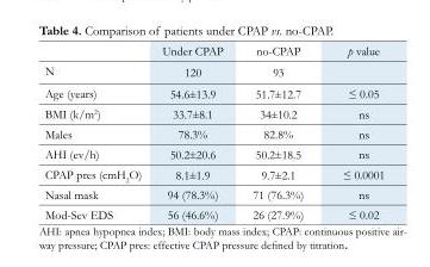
<table><thead><tr><td></td><td>Under CPAP</td><td>no-CPAP</td><td>p value</td></tr></thead><tbody><tr><td>N</td><td>120</td><td>93</td><td></td></tr><tr><td>Age (years)</td><td>54.6±13.9</td><td>51.7±12.7</td><td>≤ 0.05</td></tr><tr><td>BMI (k/m<sup>2</sup>)</td><td>33.7±8.1</td><td>34±10.2</td><td>ns</td></tr><tr><td>Males</td><td>78.3%</td><td>82.8%</td><td>ns</td></tr><tr><td>AHI (ev/h)</td><td>50.2±20.6</td><td>50.2±18.5</td><td>ns</td></tr><tr><td>CPAP pres (cmH<sub>2</sub>O)</td><td>8.1±1.9</td><td>9.7±2.1</td><td>≤ 0.0001</td></tr><tr><td>Nasal mask</td><td>94 (78.3%)</td><td>71 (76.3%)</td><td>ns</td></tr><tr><td>Mod-Sev EDS</td><td>56 (46.6%)</td><td>26 (27.9%)</td><td>≤ 0.02</td></tr></tbody></table>